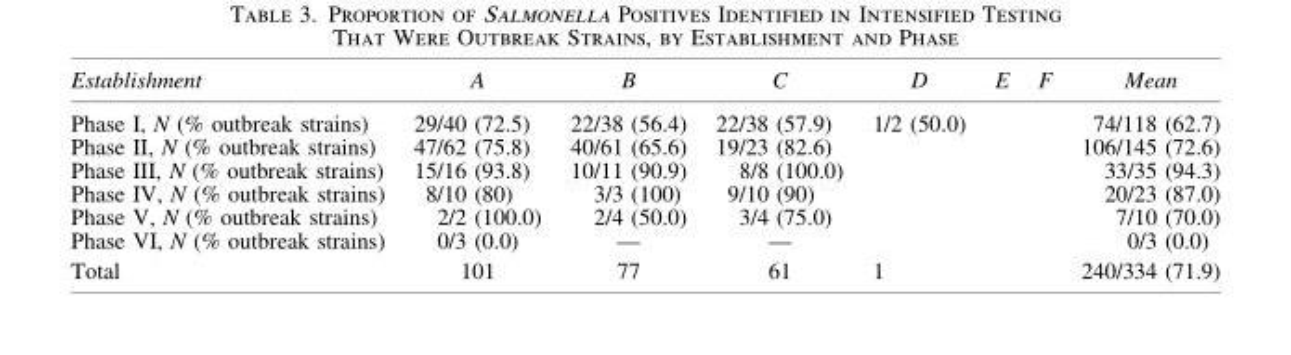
<table><thead><tr><td>Establishment</td><td>A</td><td>B</td><td>C</td><td>D</td><td>E</td><td>F</td><td>Mean</td></tr></thead><tbody><tr><td>Phase I, N (% outbreak strains)</td><td>29/40 (72.5)</td><td>22/38 (56.4)</td><td>22/38 (57.9)</td><td>1/2 (50.0)</td><td></td><td></td><td>74/118 (62.7)</td></tr><tr><td>Phase II, N (% outbreak strains)</td><td>47/62 (75.8)</td><td>40/61 (65.6)</td><td>19/23 (82.6)</td><td></td><td></td><td></td><td>106/145 (72.6)</td></tr><tr><td>Phase III, N (% outbreak strains)</td><td>15/16 (93.8)</td><td>10/11 (90.9)</td><td>8/8 (100.0)</td><td></td><td></td><td></td><td>33/35 (94.3)</td></tr><tr><td>Phase IV, N (% outbreak strains)</td><td>8/10 (80)</td><td>3/3 (100)</td><td>9/10 (90)</td><td></td><td></td><td></td><td>20/23 (87.0)</td></tr><tr><td>Phase V, N (% outbreak strains)</td><td>2/2 (100.0)</td><td>2/4 (50.0)</td><td>3/4 (75.0)</td><td></td><td></td><td></td><td>7/10 (70.0)</td></tr><tr><td>Phase VI, N (% outbreak strains)</td><td>0/3 (0.0)</td><td>—</td><td>—</td><td></td><td></td><td></td><td>0/3 (0.0)</td></tr><tr><td>Total</td><td>101</td><td>77</td><td>61</td><td>1</td><td></td><td></td><td>240/334 (71.9)</td></tr></tbody></table>